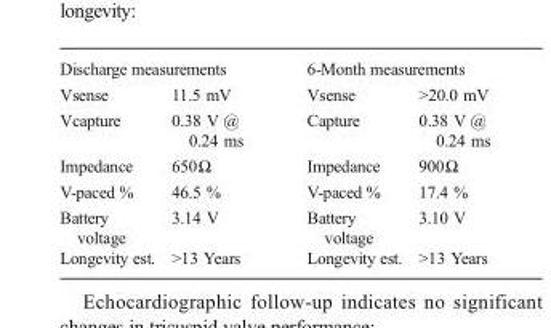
<table><tbody><tr><td colspan="2">Discharge measurements</td><td colspan="2">6-Month measurements</td></tr><tr><td>Vsense</td><td>11.5 mV</td><td>Vsense</td><td>&gt;20.0 mV</td></tr><tr><td>Vcapture</td><td>0.38 V @ 0.24 ms</td><td>Capture</td><td>0.38 V @ 0.24 ms</td></tr><tr><td>Impedance</td><td>650Ω</td><td>Impedance</td><td>900Ω</td></tr><tr><td>V-paced %</td><td>46.5 %</td><td>V-paced %</td><td>17.4 %</td></tr><tr><td>Battery voltage</td><td>3.14 V</td><td>Battery voltage</td><td>3.10 V</td></tr><tr><td>Longevity est.</td><td>&gt;13 Years</td><td>Longevity est.</td><td>&gt;13 Years</td></tr></tbody></table>